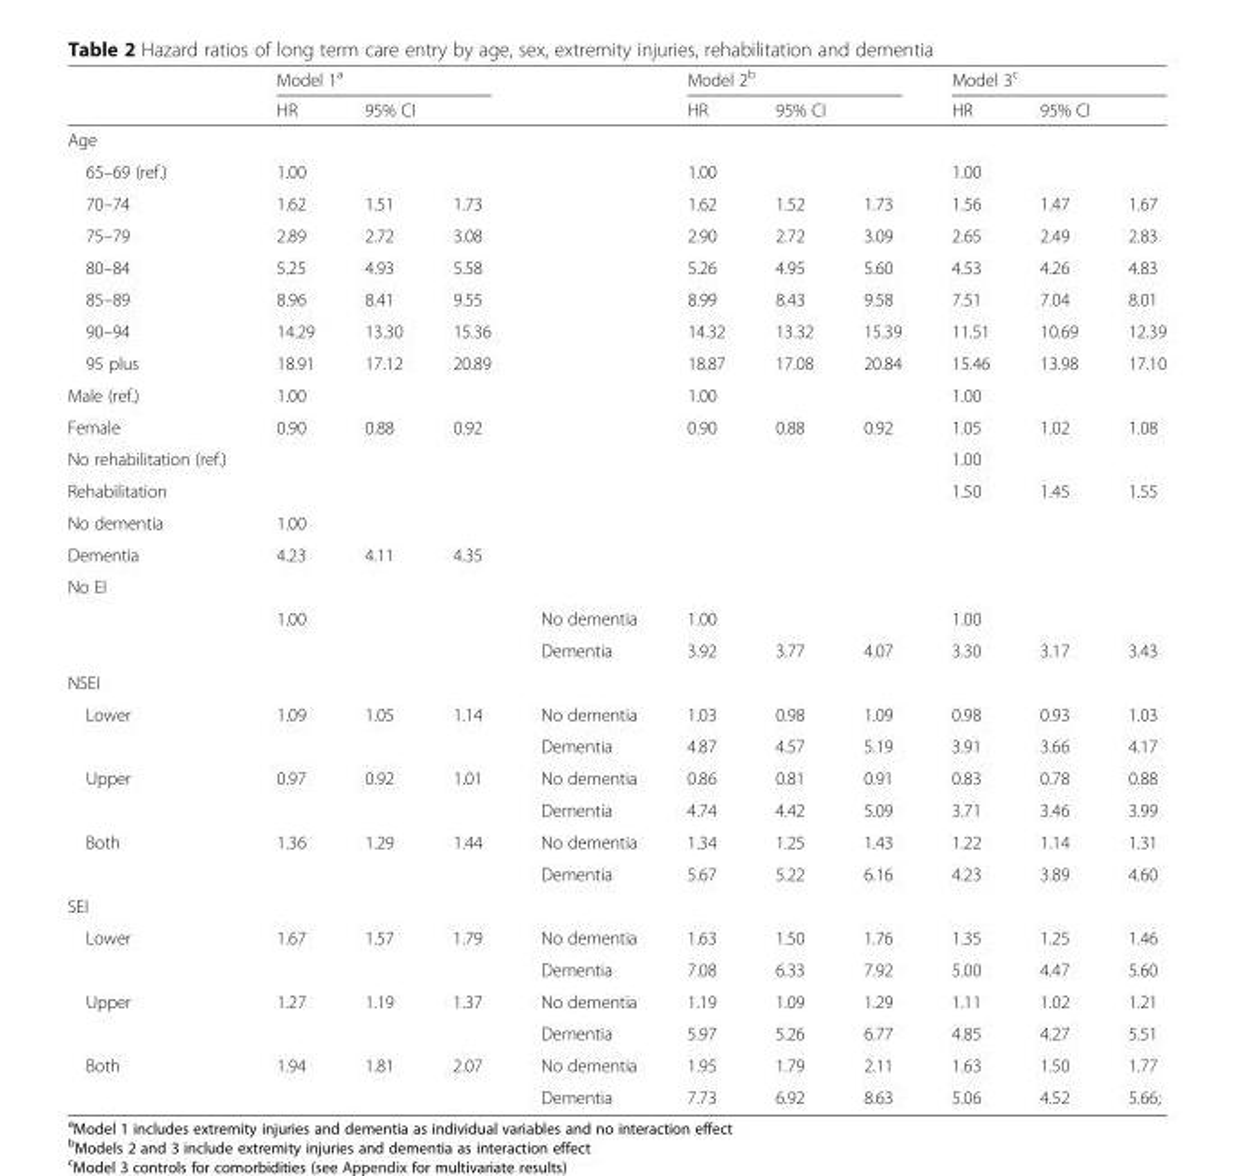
<table><thead><tr><td rowspan="2"></td><td colspan="3">Model 1<sup>a</sup></td><td rowspan="2"></td><td colspan="3">Model 2<sup>b</sup></td><td colspan="3">Model 3<sup>c</sup></td></tr><tr><td>HR</td><td colspan="2">95% CI</td><td>HR</td><td colspan="2">95% CI</td><td>HR</td><td colspan="2">95% CI</td></tr><tr><td colspan="11">Age</td></tr><tr><td>65–69 (ref.)</td><td>1.00</td><td></td><td></td><td></td><td>1.00</td><td></td><td></td><td>1.00</td><td></td><td></td></tr></thead><tbody><tr><td>70–74</td><td>1.62</td><td>1.51</td><td>1.73</td><td></td><td>1.62</td><td>1.52</td><td>1.73</td><td>1.56</td><td>1.47</td><td>1.67</td></tr><tr><td>75–79</td><td>2.89</td><td>2.72</td><td>3.08</td><td></td><td>2.90</td><td>2.72</td><td>3.09</td><td>2.65</td><td>2.49</td><td>2.83</td></tr><tr><td>80–84</td><td>5.25</td><td>4.93</td><td>5.58</td><td></td><td>5.26</td><td>4.95</td><td>5.60</td><td>4.53</td><td>4.26</td><td>4.83</td></tr><tr><td>85–89</td><td>8.96</td><td>8.41</td><td>9.55</td><td></td><td>8.99</td><td>8.43</td><td>9.58</td><td>7.51</td><td>7.04</td><td>8.01</td></tr><tr><td>90–94</td><td>14.29</td><td>13.30</td><td>15.36</td><td></td><td>14.32</td><td>13.32</td><td>15.39</td><td>11.51</td><td>10.69</td><td>12.39</td></tr><tr><td>95 plus</td><td>18.91</td><td>17.12</td><td>20.89</td><td></td><td>18.87</td><td>17.08</td><td>20.84</td><td>15.46</td><td>13.98</td><td>17.10</td></tr><tr><td>Male (ref.)</td><td>1.00</td><td></td><td></td><td></td><td>1.00</td><td></td><td></td><td>1.00</td><td></td><td></td></tr><tr><td>Female</td><td>0.90</td><td>0.88</td><td>0.92</td><td></td><td>0.90</td><td>0.88</td><td>0.92</td><td>1.05</td><td>1.02</td><td>1.08</td></tr><tr><td>No rehabilitation (ref.)</td><td></td><td></td><td></td><td></td><td></td><td></td><td></td><td>1.00</td><td></td><td></td></tr><tr><td>Rehabilitation</td><td></td><td></td><td></td><td></td><td></td><td></td><td></td><td>1.50</td><td>1.45</td><td>1.55</td></tr><tr><td>No dementia</td><td>1.00</td><td></td><td></td><td></td><td></td><td></td><td></td><td></td><td></td><td></td></tr><tr><td>Dementia</td><td>4.23</td><td>4.11</td><td>4.35</td><td></td><td></td><td></td><td></td><td></td><td></td><td></td></tr><tr><td colspan="11">No EI</td></tr><tr><td rowspan="2"></td><td>1.00</td><td></td><td></td><td>No dementia</td><td>1.00</td><td></td><td></td><td>1.00</td><td></td><td></td></tr><tr><td></td><td></td><td></td><td>Dementia</td><td>3.92</td><td>3.77</td><td>4.07</td><td>3.30</td><td>3.17</td><td>3.43</td></tr><tr><td colspan="11">NSEI</td></tr><tr><td rowspan="2">Lower</td><td>1.09</td><td>1.05</td><td>1.14</td><td>No dementia</td><td>1.03</td><td>0.98</td><td>1.09</td><td>0.98</td><td>0.93</td><td>1.03</td></tr><tr><td></td><td></td><td></td><td>Dementia</td><td>4.87</td><td>4.57</td><td>5.19</td><td>3.91</td><td>3.66</td><td>4.17</td></tr><tr><td rowspan="2">Upper</td><td>0.97</td><td>0.92</td><td>1.01</td><td>No dementia</td><td>0.86</td><td>0.81</td><td>0.91</td><td>0.83</td><td>0.78</td><td>0.88</td></tr><tr><td></td><td></td><td></td><td>Dementia</td><td>4.74</td><td>4.42</td><td>5.09</td><td>3.71</td><td>3.46</td><td>3.99</td></tr><tr><td rowspan="2">Both</td><td>1.36</td><td>1.29</td><td>1.44</td><td>No dementia</td><td>1.34</td><td>1.25</td><td>1.43</td><td>1.22</td><td>1.14</td><td>1.31</td></tr><tr><td></td><td></td><td></td><td>Dementia</td><td>5.67</td><td>5.22</td><td>6.16</td><td>4.23</td><td>3.89</td><td>4.60</td></tr><tr><td colspan="11">SEI</td></tr><tr><td rowspan="2">Lower</td><td>1.67</td><td>1.57</td><td>1.79</td><td>No dementia</td><td>1.63</td><td>1.50</td><td>1.76</td><td>1.35</td><td>1.25</td><td>1.46</td></tr><tr><td></td><td></td><td></td><td>Dementia</td><td>7.08</td><td>6.33</td><td>7.92</td><td>5.00</td><td>4.47</td><td>5.60</td></tr><tr><td rowspan="2">Upper</td><td>1.27</td><td>1.19</td><td>1.37</td><td>No dementia</td><td>1.19</td><td>1.09</td><td>1.29</td><td>1.11</td><td>1.02</td><td>1.21</td></tr><tr><td></td><td></td><td></td><td>Dementia</td><td>5.97</td><td>5.26</td><td>6.77</td><td>4.85</td><td>4.27</td><td>5.51</td></tr><tr><td rowspan="2">Both</td><td>1.94</td><td>1.81</td><td>2.07</td><td>No dementia</td><td>1.95</td><td>1.79</td><td>2.11</td><td>1.63</td><td>1.50</td><td>1.77</td></tr><tr><td></td><td></td><td></td><td>Dementia</td><td>7.73</td><td>6.92</td><td>8.63</td><td>5.06</td><td>4.52</td><td>5.66;</td></tr></tbody></table>